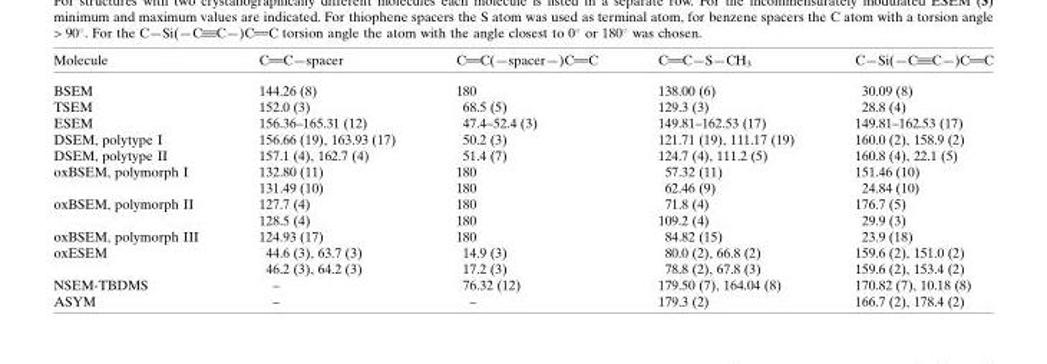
<table><thead><tr><td>Molecule</td><td>C C—spacer</td><td>C C(—spacer—)C</td><td>C C C—S—CH3</td><td>C—Si(—C C—)C C</td></tr></thead><tbody><tr><td>BSEM</td><td>144.26 (8)</td><td>180</td><td>138.00 (6)</td><td>30.09 (8)</td></tr><tr><td>TSEM</td><td>152.0 (3)</td><td>68.5 (5)</td><td>129.3 (3)</td><td>28.8 (4)</td></tr><tr><td>ESEM</td><td>156.36–165.31 (12)</td><td>47.4–52.4 (3)</td><td>149.81–162.53 (17)</td><td>149.81–162.53 (17)</td></tr><tr><td>DSEM, polytype I</td><td>156.66 (19), 163.93 (17)</td><td>50.2 (3)</td><td>121.71 (19), 111.17 (19)</td><td>160.0 (2), 158.9 (2)</td></tr><tr><td>DSEM, polytype II</td><td>157.1 (4), 162.7 (4)</td><td>51.4 (7)</td><td>124.7 (4), 111.2 (5)</td><td>160.8 (4), 22.1 (5)</td></tr><tr><td rowspan="2">oxBSEM, polymorph I</td><td>132.80 (11)</td><td>180</td><td>57.32 (11)</td><td>151.46 (10)</td></tr><tr><td>131.49 (10)</td><td>180</td><td>62.46 (9)</td><td>24.84 (10)</td></tr><tr><td rowspan="2">oxBSEM, polymorph II</td><td>127.7 (4)</td><td>180</td><td>71.8 (4)</td><td>176.7 (5)</td></tr><tr><td>128.5 (4)</td><td>180</td><td>109.2 (4)</td><td>29.9 (3)</td></tr><tr><td>oxBSEM, polymorph III</td><td>124.93 (17)</td><td>180</td><td>84.82 (15)</td><td>23.9 (18)</td></tr><tr><td rowspan="2">oxESEM</td><td>44.6 (3), 63.7 (3)</td><td>14.9 (3)</td><td>80.0 (2), 66.8 (2)</td><td>159.6 (2), 151.0 (2)</td></tr><tr><td>46.2 (3), 64.2 (3)</td><td>17.2 (3)</td><td>78.8 (2), 67.8 (3)</td><td>159.6 (2), 153.4 (2)</td></tr><tr><td>NSEM-TBDMS</td><td>–</td><td>76.32 (12)</td><td>179.50 (7), 164.04 (8)</td><td>170.82 (7), 10.18 (8)</td></tr><tr><td>ASYM</td><td>–</td><td>–</td><td>179.3 (2)</td><td>166.7 (2), 178.4 (2)</td></tr></tbody></table>